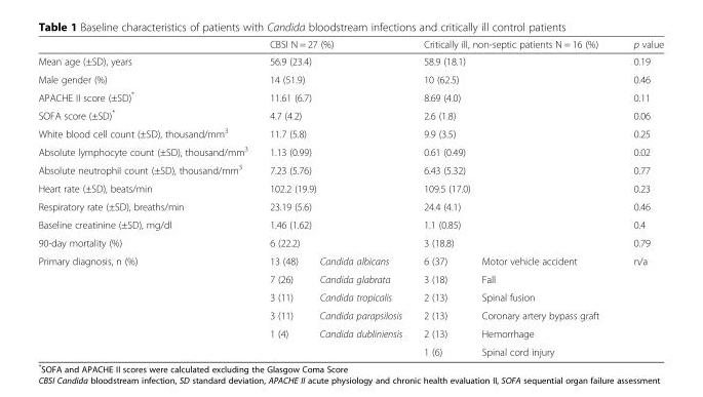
<table><thead><tr><td></td><td colspan="2">CBSI N = 27 (%)</td><td colspan="2">Critically ill, non-septic patients N = 16 (%)</td><td>p value</td></tr></thead><tbody><tr><td>Mean age (±SD), years</td><td colspan="2">56.9 (23.4)</td><td colspan="2">58.9 (18.1)</td><td>0.19</td></tr><tr><td>Male gender (%)</td><td colspan="2">14 (51.9)</td><td colspan="2">10 (62.5)</td><td>0.46</td></tr><tr><td>APACHE II score (±SD)*</td><td colspan="2">11.61 (6.7)</td><td colspan="2">8.69 (4.0)</td><td>0.11</td></tr><tr><td>SOFA score (±SD)*</td><td colspan="2">4.7 (4.2)</td><td colspan="2">2.6 (1.8)</td><td>0.06</td></tr><tr><td>White blood cell count (±SD), thousand/mm<sup>3</sup></td><td colspan="2">11.7 (5.8)</td><td colspan="2">9.9 (3.5)</td><td>0.25</td></tr><tr><td>Absolute lymphocyte count (±SD), thousand/mm<sup>3</sup></td><td colspan="2">1.13 (0.99)</td><td colspan="2">0.61 (0.49)</td><td>0.02</td></tr><tr><td>Absolute neutrophil count (±SD), thousand/mm<sup>3</sup></td><td colspan="2">7.23 (5.76)</td><td colspan="2">6.43 (5.32)</td><td>0.77</td></tr><tr><td>Heart rate (±SD), beats/min</td><td colspan="2">102.2 (19.9)</td><td colspan="2">109.5 (17.0)</td><td>0.23</td></tr><tr><td>Respiratory rate (±SD), breaths/min</td><td colspan="2">23.19 (5.6)</td><td colspan="2">24.4 (4.1)</td><td>0.46</td></tr><tr><td>Baseline creatinine (±SD), mg/dl</td><td colspan="2">1.46 (1.62)</td><td colspan="2">1.1 (0.85)</td><td>0.4</td></tr><tr><td>90-day mortality (%)</td><td colspan="2">6 (22.2)</td><td colspan="2">3 (18.8)</td><td>0.79</td></tr><tr><td rowspan="6">Primary diagnosis, n (%)</td><td>13 (48)</td><td>Candida albicans</td><td>6 (37)</td><td>Motor vehicle accident</td><td rowspan="6">n/a</td></tr><tr><td>7 (26)</td><td>Candida glabrata</td><td>3 (18)</td><td>Fall</td></tr><tr><td>3 (11)</td><td>Candida tropicalis</td><td>2 (13)</td><td>Spinal fusion</td></tr><tr><td>3 (11)</td><td>Candida parapsilosis</td><td>2 (13)</td><td>Coronary artery bypass graft</td></tr><tr><td rowspan="2">1 (4)</td><td rowspan="2">Candida dubliniensis</td><td>2 (13)</td><td>Hemorrhage</td></tr><tr><td>1 (6)</td><td>Spinal cord injury</td></tr></tbody></table>